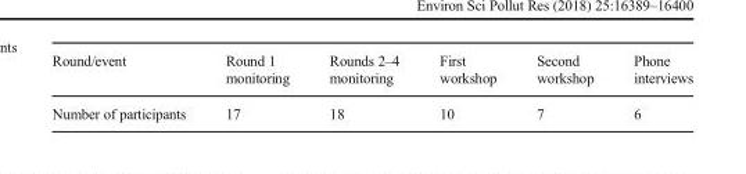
<table><thead><tr><td>Round/event</td><td>Round 1 monitoring</td><td>Rounds 2–4 monitoring</td><td>First workshop</td><td>Second workshop</td><td>Phone interviews</td></tr></thead><tbody><tr><td>Number of participants</td><td>17</td><td>18</td><td>10</td><td>7</td><td>6</td></tr></tbody></table>